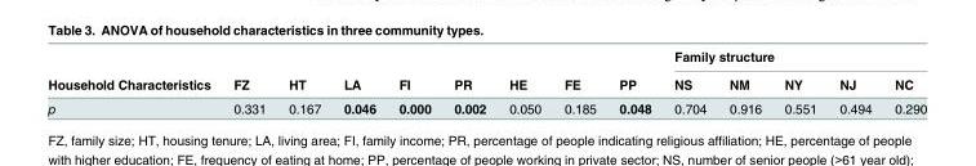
<table><thead><tr><td rowspan="2">Household Characteristics</td><td rowspan="2">FZ</td><td rowspan="2">HT</td><td rowspan="2">LA</td><td rowspan="2">FI</td><td rowspan="2">PR</td><td rowspan="2">HE</td><td rowspan="2">FE</td><td rowspan="2">PP</td><td colspan="5">Family structure</td></tr><tr><td>NS</td><td>NM</td><td>NY</td><td>NJ</td><td>NC</td></tr></thead><tbody><tr><td>p</td><td>0.331</td><td>0.167</td><td>0.046</td><td>0.000</td><td>0.002</td><td>0.050</td><td>0.185</td><td>0.048</td><td>0.704</td><td>0.916</td><td>0.551</td><td>0.494</td><td>0.290</td></tr></tbody></table>